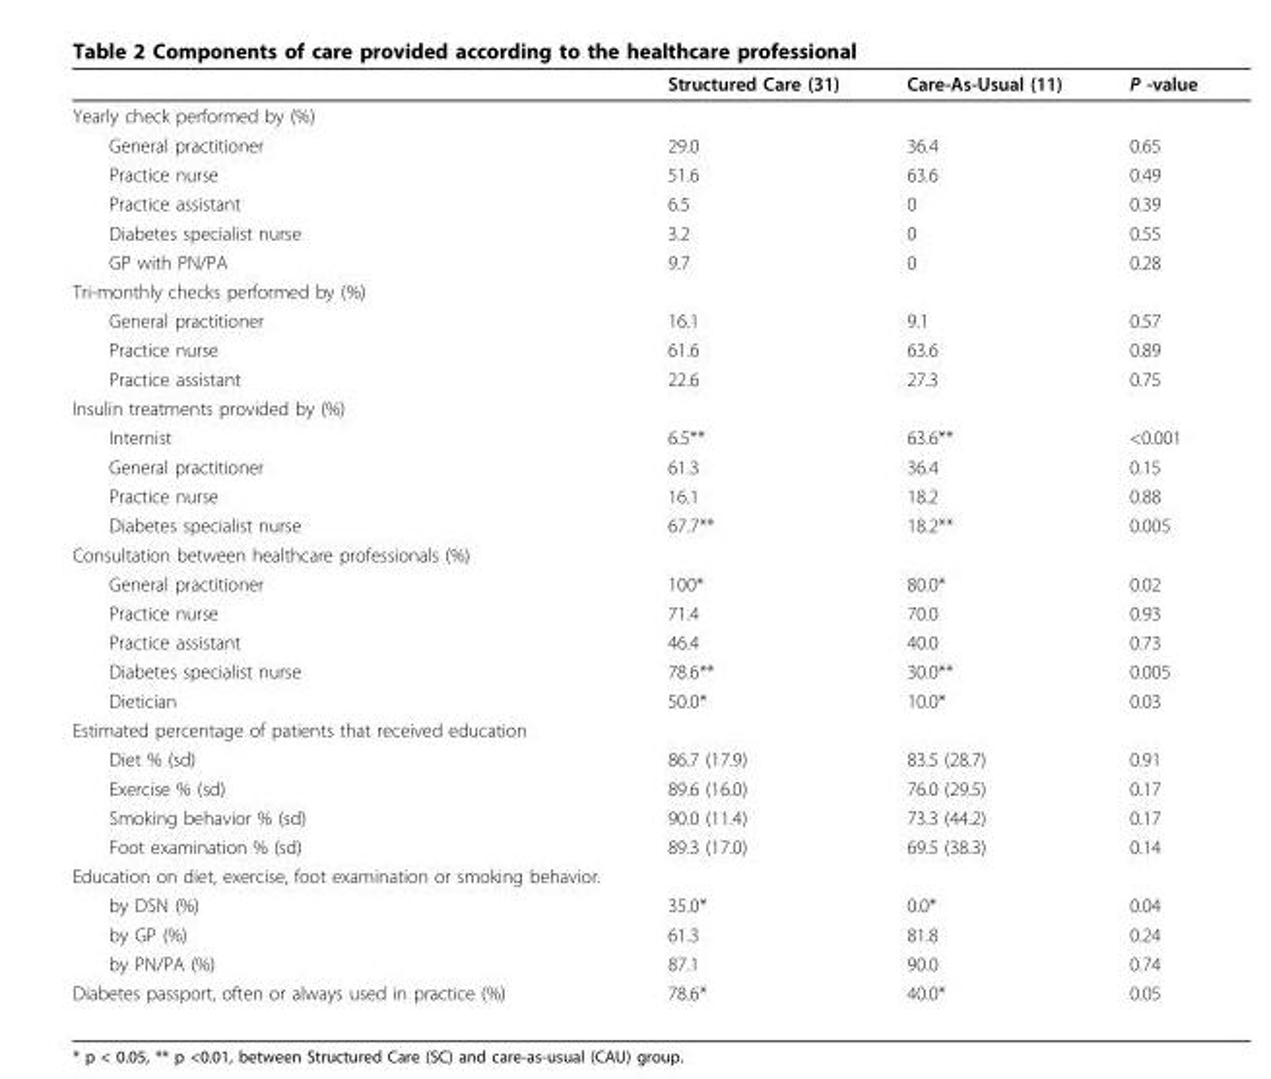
<table><thead><tr><td></td><td>Structured Care (31)</td><td>Care-As-Usual (11)</td><td>P -value</td></tr></thead><tbody><tr><td colspan="4">Yearly check performed by (%)</td></tr><tr><td>General practitioner</td><td>29.0</td><td>36.4</td><td>0.65</td></tr><tr><td>Practice nurse</td><td>51.6</td><td>63.6</td><td>0.49</td></tr><tr><td>Practice assistant</td><td>6.5</td><td>0</td><td>0.39</td></tr><tr><td>Diabetes specialist nurse</td><td>3.2</td><td>0</td><td>0.55</td></tr><tr><td>GP with PN/PA</td><td>9.7</td><td>0</td><td>0.28</td></tr><tr><td colspan="4">Tri-monthly checks performed by (%)</td></tr><tr><td>General practitioner</td><td>16.1</td><td>9.1</td><td>0.57</td></tr><tr><td>Practice nurse</td><td>61.6</td><td>63.6</td><td>0.89</td></tr><tr><td>Practice assistant</td><td>22.6</td><td>27.3</td><td>0.75</td></tr><tr><td colspan="4">Insulin treatments provided by (%)</td></tr><tr><td>Internist</td><td>6.5**</td><td>63.6**</td><td>&lt;0.001</td></tr><tr><td>General practitioner</td><td>61.3</td><td>36.4</td><td>0.15</td></tr><tr><td>Practice nurse</td><td>16.1</td><td>18.2</td><td>0.88</td></tr><tr><td>Diabetes specialist nurse</td><td>67.7**</td><td>18.2**</td><td>0.005</td></tr><tr><td colspan="4">Consultation between healthcare professionals (%)</td></tr><tr><td>General practitioner</td><td>100*</td><td>80.0*</td><td>0.02</td></tr><tr><td>Practice nurse</td><td>71.4</td><td>70.0</td><td>0.93</td></tr><tr><td>Practice assistant</td><td>46.4</td><td>40.0</td><td>0.73</td></tr><tr><td>Diabetes specialist nurse</td><td>78.6**</td><td>30.0**</td><td>0.005</td></tr><tr><td>Dietician</td><td>50.0*</td><td>10.0*</td><td>0.03</td></tr><tr><td colspan="4">Estimated percentage of patients that received education</td></tr><tr><td>Diet % (sd)</td><td>86.7 (17.9)</td><td>83.5 (28.7)</td><td>0.91</td></tr><tr><td>Exercise % (sd)</td><td>89.6 (16.0)</td><td>76.0 (29.5)</td><td>0.17</td></tr><tr><td>Smoking behavior % (sd)</td><td>90.0 (11.4)</td><td>73.3 (44.2)</td><td>0.17</td></tr><tr><td>Foot examination % (sd)</td><td>89.3 (17.0)</td><td>69.5 (38.3)</td><td>0.14</td></tr><tr><td colspan="4">Education on diet, exercise, foot examination or smoking behavior.</td></tr><tr><td>by DSN (%)</td><td>35.0*</td><td>0.0*</td><td>0.04</td></tr><tr><td>by GP (%)</td><td>61.3</td><td>81.8</td><td>0.24</td></tr><tr><td>by PN/PA (%)</td><td>87.1</td><td>90.0</td><td>0.74</td></tr><tr><td>Diabetes passport, often or always used in practice (%)</td><td>78.6*</td><td>40.0*</td><td>0.05</td></tr></tbody></table>